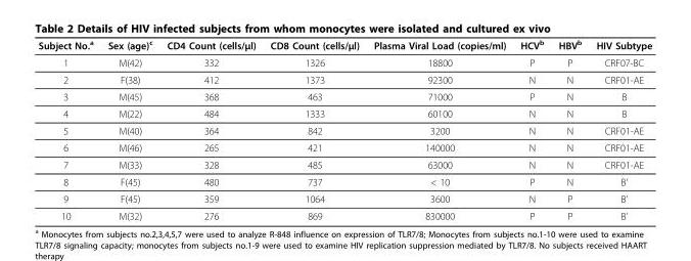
<table><thead><tr><td>Subject No.<sup>a</sup></td><td>Sex (age)<sup>c</sup></td><td>CD4 Count (cells/μl)</td><td>CD8 Count (cells/μl)</td><td>Plasma Viral Load (copies/ml)</td><td>HCV<sup>b</sup></td><td>HBV<sup>b</sup></td><td>HIV Subtype</td></tr></thead><tbody><tr><td>1</td><td>M(42)</td><td>332</td><td>1326</td><td>18800</td><td>P</td><td>P</td><td>CRF07-BC</td></tr><tr><td>2</td><td>F(38)</td><td>412</td><td>1373</td><td>92300</td><td>N</td><td>N</td><td>CRF01-AE</td></tr><tr><td>3</td><td>M(45)</td><td>368</td><td>463</td><td>71000</td><td>P</td><td>N</td><td>B</td></tr><tr><td>4</td><td>M(22)</td><td>484</td><td>1333</td><td>60100</td><td>N</td><td>N</td><td>B</td></tr><tr><td>5</td><td>M(40)</td><td>364</td><td>842</td><td>3200</td><td>N</td><td>N</td><td>CRF01-AE</td></tr><tr><td>6</td><td>M(46)</td><td>265</td><td>421</td><td>140000</td><td>N</td><td>N</td><td>CRF01-AE</td></tr><tr><td>7</td><td>M(33)</td><td>328</td><td>485</td><td>63000</td><td>N</td><td>N</td><td>CRF01-AE</td></tr><tr><td>8</td><td>F(45)</td><td>480</td><td>737</td><td>&lt; 10</td><td>P</td><td>N</td><td>B’</td></tr><tr><td>9</td><td>F(45)</td><td>359</td><td>1064</td><td>3600</td><td>N</td><td>P</td><td>B’</td></tr><tr><td>10</td><td>M(32)</td><td>276</td><td>869</td><td>830000</td><td>P</td><td>P</td><td>B’</td></tr></tbody></table>